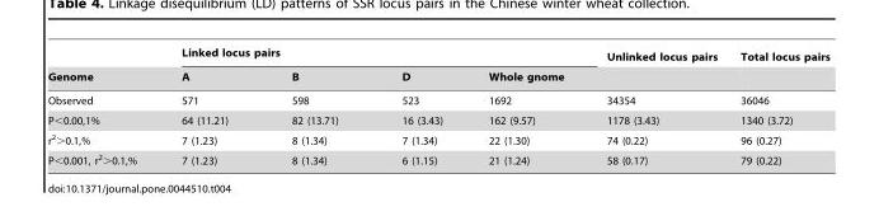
<table><thead><tr><td rowspan="2">Genome</td><td colspan="4">Linked locus pairs</td><td rowspan="2">Unlinked locus pairs</td><td rowspan="2">Total locus pairs</td></tr><tr><td>A</td><td>B</td><td>D</td><td>Whole gnome</td></tr></thead><tbody><tr><td>Observed</td><td>571</td><td>598</td><td>523</td><td>1692</td><td>34354</td><td>36046</td></tr><tr><td>P&lt;0.00,1%</td><td>64 (11.21)</td><td>82 (13.71)</td><td>16 (3.43)</td><td>162 (9.57)</td><td>1178 (3.43)</td><td>1340 (3.72)</td></tr><tr><td>r<sup>2</sup>&gt;0.1,%</td><td>7 (1.23)</td><td>8 (1.34)</td><td>7 (1.34)</td><td>22 (1.30)</td><td>74 (0.22)</td><td>96 (0.27)</td></tr><tr><td>P&lt;0.001, r<sup>2</sup>&gt;0.1,%</td><td>7 (1.23)</td><td>8 (1.34)</td><td>6 (1.15)</td><td>21 (1.24)</td><td>58 (0.17)</td><td>79 (0.22)</td></tr></tbody></table>